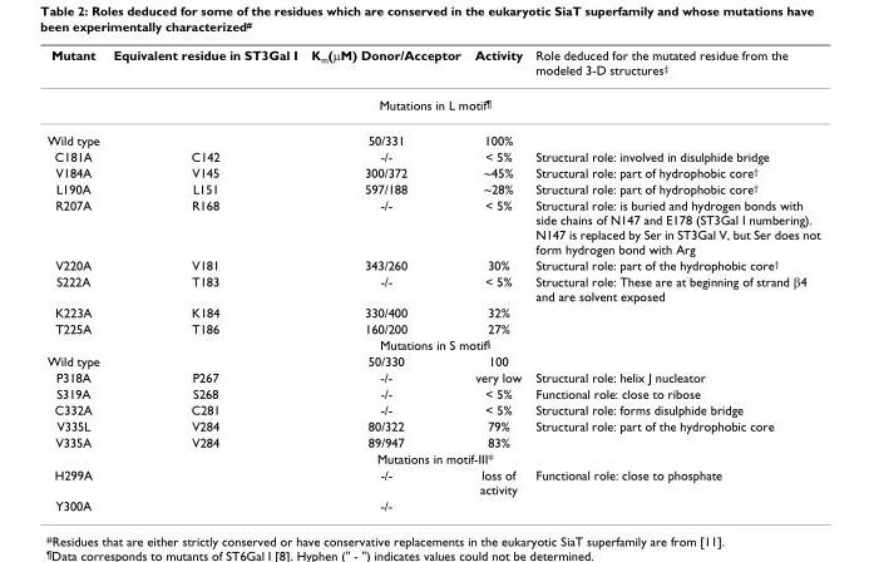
<table><thead><tr><td>Mutant</td><td>Equivalent residue in ST3Gal I</td><td>Km(µM) Donor/Acceptor</td><td>Activity</td><td>Role deduced for the mutated residue from the modeled 3-D structures‡</td></tr></thead><tbody><tr><td colspan="5">Mutations in L motif¶</td></tr><tr><td>Wild type</td><td></td><td>50/331</td><td>100%</td><td></td></tr><tr><td>C181A</td><td>C142</td><td>-/-</td><td>&lt; 5%</td><td>Structural role: involved in disulphide bridge</td></tr><tr><td>V184A</td><td>V145</td><td>300/372</td><td>~45%</td><td>Structural role: part of hydrophobic core†</td></tr><tr><td>L190A</td><td>L151</td><td>597/188</td><td>~28%</td><td>Structural role: part of hydrophobic core†</td></tr><tr><td>R207A</td><td>R168</td><td>-/-</td><td>&lt; 5%</td><td>Structural role: is buried and hydrogen bonds with side chains of N147 and E178 (ST3Gal I numbering). N147 is replaced by Ser in ST3Gal V, but Ser does not form hydrogen bond with Arg</td></tr><tr><td>V220A</td><td>V181</td><td>343/260</td><td>30%</td><td>Structural role: part of the hydrophobic core†</td></tr><tr><td>S222A</td><td>T183</td><td>-/-</td><td>&lt; 5%</td><td>Structural role: These are at beginning of strand β4 and are solvent exposed</td></tr><tr><td>K223A</td><td>K184</td><td>330/400</td><td>32%</td><td></td></tr><tr><td>T225A</td><td>T186</td><td>160/200</td><td>27%</td><td></td></tr><tr><td colspan="5">Mutations in S motif§</td></tr><tr><td>Wild type</td><td></td><td>50/330</td><td>100</td><td></td></tr><tr><td>P318A</td><td>P267</td><td>-/-</td><td>very low</td><td>Structural role: helix J nucleator</td></tr><tr><td>S319A</td><td>S268</td><td>-/-</td><td>&lt; 5%</td><td>Functional role: close to ribose</td></tr><tr><td>C332A</td><td>C281</td><td>-/-</td><td>&lt; 5%</td><td>Structural role: forms disulphide bridge</td></tr><tr><td>V335L</td><td>V284</td><td>80/322</td><td>79%</td><td>Structural role: part of the hydrophobic core</td></tr><tr><td>V335A</td><td>V284</td><td>89/947</td><td>83%</td><td></td></tr><tr><td colspan="5">Mutations in motif-III*</td></tr><tr><td>H299A</td><td></td><td>-/-</td><td>loss of activity</td><td>Functional role: close to phosphate</td></tr><tr><td>Y300A</td><td></td><td>-/-</td><td></td><td></td></tr></tbody></table>